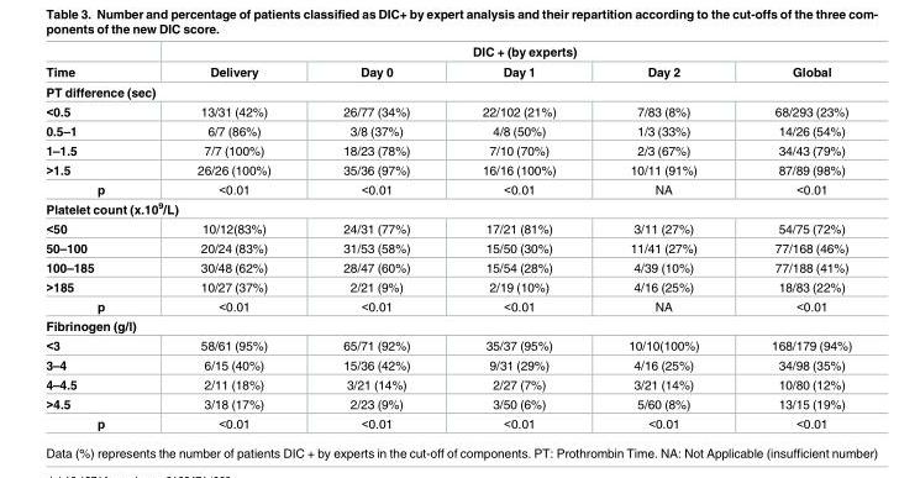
<table><thead><tr><td rowspan="2">Time</td><td colspan="5">DIC + (by experts)</td></tr><tr><td>Delivery</td><td>Day 0</td><td>Day 1</td><td>Day 2</td><td>Global</td></tr></thead><tbody><tr><td colspan="6">PT difference (sec)</td></tr><tr><td>&lt;0.5</td><td>13/31 (42%)</td><td>26/77 (34%)</td><td>22/102 (21%)</td><td>7/83 (8%)</td><td>68/293 (23%)</td></tr><tr><td>0.5–1</td><td>6/7 (86%)</td><td>3/8 (37%)</td><td>4/8 (50%)</td><td>1/3 (33%)</td><td>14/26 (54%)</td></tr><tr><td>1–1.5</td><td>7/7 (100%)</td><td>18/23 (78%)</td><td>7/10 (70%)</td><td>2/3 (67%)</td><td>34/43 (79%)</td></tr><tr><td>&gt;1.5</td><td>26/26 (100%)</td><td>35/36 (97%)</td><td>16/16 (100%)</td><td>10/11 (91%)</td><td>87/89 (98%)</td></tr><tr><td>p</td><td>&lt;0.01</td><td>&lt;0.01</td><td>&lt;0.01</td><td>NA</td><td>&lt;0.01</td></tr><tr><td colspan="6">Platelet count (x.10<sup>9</sup>/L)</td></tr><tr><td>&lt;50</td><td>10/12(83%)</td><td>24/31 (77%)</td><td>17/21 (81%)</td><td>3/11 (27%)</td><td>54/75 (72%)</td></tr><tr><td>50–100</td><td>20/24 (83%)</td><td>31/53 (58%)</td><td>15/50 (30%)</td><td>11/41 (27%)</td><td>77/168 (46%)</td></tr><tr><td>100–185</td><td>30/48 (62%)</td><td>28/47 (60%)</td><td>15/54 (28%)</td><td>4/39 (10%)</td><td>77/188 (41%)</td></tr><tr><td>&gt;185</td><td>10/27 (37%)</td><td>2/21 (9%)</td><td>2/19 (10%)</td><td>4/16 (25%)</td><td>18/83 (22%)</td></tr><tr><td>p</td><td>&lt;0.01</td><td>&lt;0.01</td><td>&lt;0.01</td><td>NA</td><td>&lt;0.01</td></tr><tr><td colspan="6">Fibrinogen (g/l)</td></tr><tr><td>&lt;3</td><td>58/61 (95%)</td><td>65/71 (92%)</td><td>35/37 (95%)</td><td>10/10(100%)</td><td>168/179 (94%)</td></tr><tr><td>3–4</td><td>6/15 (40%)</td><td>15/36 (42%)</td><td>9/31 (29%)</td><td>4/16 (25%)</td><td>34/98 (35%)</td></tr><tr><td>4–4.5</td><td>2/11 (18%)</td><td>3/21 (14%)</td><td>2/27 (7%)</td><td>3/21 (14%)</td><td>10/80 (12%)</td></tr><tr><td>&gt;4.5</td><td>3/18 (17%)</td><td>2/23 (9%)</td><td>3/50 (6%)</td><td>5/60 (8%)</td><td>13/15 (19%)</td></tr><tr><td>p</td><td>&lt;0.01</td><td>&lt;0.01</td><td>&lt;0.01</td><td>&lt;0.01</td><td>&lt;0.01</td></tr></tbody></table>